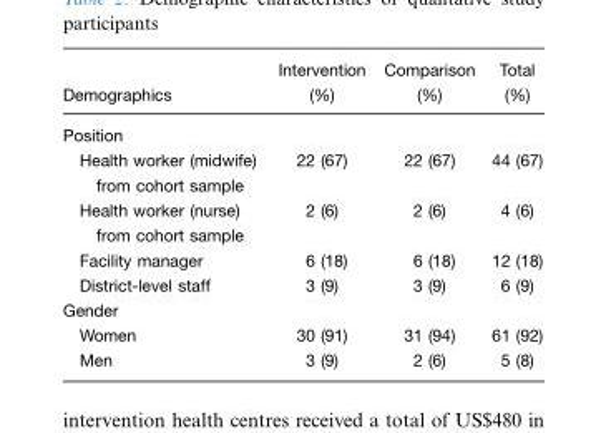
<table><thead><tr><td>Demographics</td><td>Intervention (%)</td><td>Comparison (%)</td><td>Total (%)</td></tr></thead><tbody><tr><td colspan="4">Position</td></tr><tr><td>Health worker (midwife) from cohort sample</td><td>22 (67)</td><td>22 (67)</td><td>44 (67)</td></tr><tr><td>Health worker (nurse) from cohort sample</td><td>2 (6)</td><td>2 (6)</td><td>4 (6)</td></tr><tr><td>Facility manager</td><td>6 (18)</td><td>6 (18)</td><td>12 (18)</td></tr><tr><td>District-level staff</td><td>3 (9)</td><td>3 (9)</td><td>6 (9)</td></tr><tr><td colspan="4">Gender</td></tr><tr><td>Women</td><td>30 (91)</td><td>31 (94)</td><td>61 (92)</td></tr><tr><td>Men</td><td>3 (9)</td><td>2 (6)</td><td>5 (8)</td></tr></tbody></table>